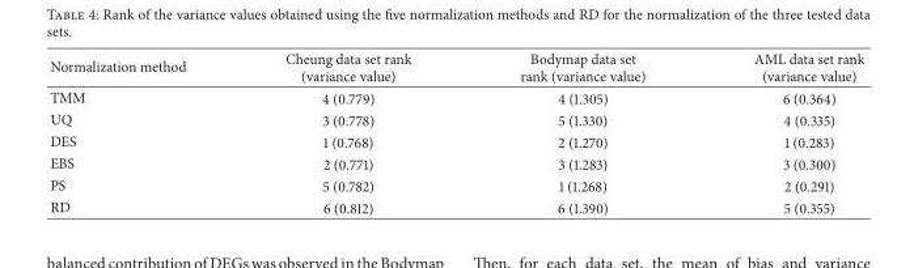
<table><thead><tr><td>Normalization method</td><td>Cheung data set rank (variance value)</td><td>Bodymap data set rank (variance value)</td><td>AML data set rank (variance value)</td></tr></thead><tbody><tr><td>TMM</td><td>4 (0.779)</td><td>4 (1.305)</td><td>6 (0.364)</td></tr><tr><td>UQ</td><td>3 (0.778)</td><td>5 (1.330)</td><td>4 (0.335)</td></tr><tr><td>DES</td><td>1 (0.768)</td><td>2 (1.270)</td><td>1 (0.283)</td></tr><tr><td>EBS</td><td>2 (0.771)</td><td>3 (1.283)</td><td>3 (0.300)</td></tr><tr><td>PS</td><td>5 (0.782)</td><td>1 (1.268)</td><td>2 (0.291)</td></tr><tr><td>RD</td><td>6 (0.812)</td><td>6 (1.390)</td><td>5 (0.355)</td></tr></tbody></table>